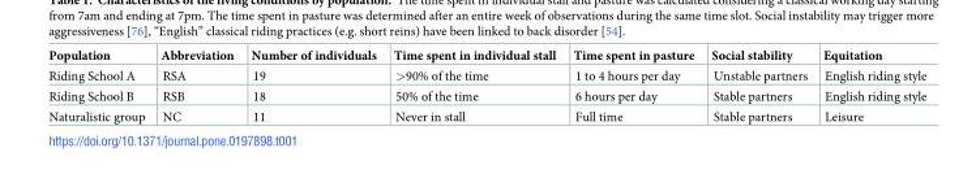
<table><thead><tr><td>Population</td><td>Abbreviation</td><td>Number of individuals</td><td>Time spent in individual stall</td><td>Time spent in pasture</td><td>Social stability</td><td>Equitation</td></tr></thead><tbody><tr><td>Riding School A</td><td>RSA</td><td>19</td><td>&gt;90% of the time</td><td>1 to 4 hours per day</td><td>Unstable partners</td><td>English riding style</td></tr><tr><td>Riding School B</td><td>RSB</td><td>18</td><td>50% of the time</td><td>6 hours per day</td><td>Stable partners</td><td>English riding style</td></tr><tr><td>Naturalistic group</td><td>NC</td><td>11</td><td>Never in stall</td><td>Full time</td><td>Stable partners</td><td>Leisure</td></tr></tbody></table>